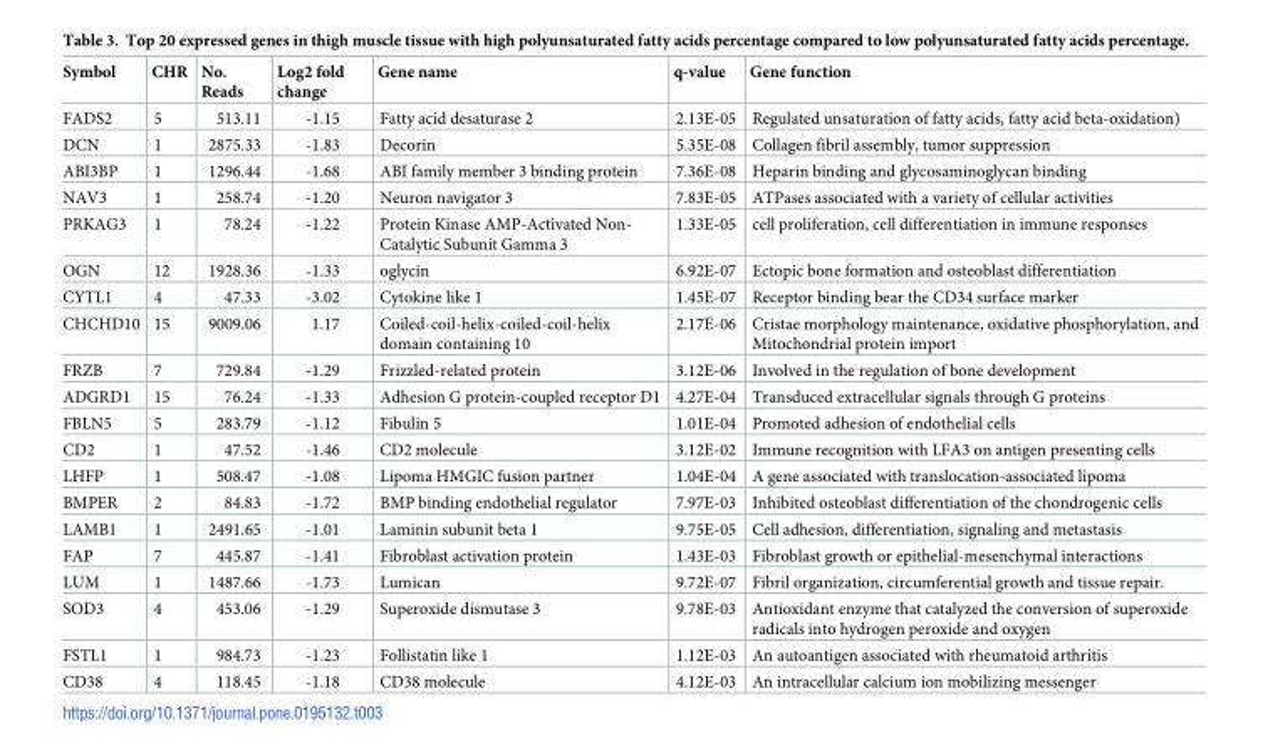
<table><thead><tr><td>Symbol</td><td>CHR</td><td>No. Reads</td><td>Log2 fold change</td><td>Gene name</td><td>q-value</td><td>Gene function</td></tr></thead><tbody><tr><td>FADS2</td><td>5</td><td>513.11</td><td>-1.15</td><td>Fatty acid desaturase 2</td><td>2.13E-05</td><td>Regulated unsaturation of fatty acids, fatty acid beta-oxidation)</td></tr><tr><td>DCN</td><td>1</td><td>2875.33</td><td>-1.83</td><td>Decorin</td><td>5.35E-08</td><td>Collagen fibril assembly, tumor suppression</td></tr><tr><td>ABI3BP</td><td>1</td><td>1296.44</td><td>-1.68</td><td>ABI family member 3 binding protein</td><td>7.36E-08</td><td>Heparin binding and glycosaminoglycan binding</td></tr><tr><td>NAV3</td><td>1</td><td>258.74</td><td>-1.20</td><td>Neuron navigator 3</td><td>7.83E-05</td><td>ATPases associated with a variety of cellular activities</td></tr><tr><td>PRKAG3</td><td>1</td><td>78.24</td><td>-1.22</td><td>Protein Kinase AMP-Activated Non- Catalytic Subunit Gamma 3</td><td>1.33E-05</td><td>cell proliferation, cell differentiation in immune responses</td></tr><tr><td>OGN</td><td>12</td><td>1928.36</td><td>-1.33</td><td>oglycin</td><td>6.92E-07</td><td>Ectopic bone formation and osteoblast differentiation</td></tr><tr><td>CYTL1</td><td>4</td><td>47.33</td><td>-3.02</td><td>Cytokine like 1</td><td>1.45E-07</td><td>Receptor binding bear the CD34 surface marker</td></tr><tr><td>CHCHD10</td><td>15</td><td>9009.06</td><td>1.17</td><td>Coiled-coil-helix-coiled-coil-helix domain containing 10</td><td>2.17E-06</td><td>Cristae morphology maintenance, oxidative phosphorylation, and Mitochondrial protein import</td></tr><tr><td>FRZB</td><td>7</td><td>729.84</td><td>-1.29</td><td>Frizzled-related protein</td><td>3.12E-06</td><td>Involved in the regulation of bone development</td></tr><tr><td>ADGRD1</td><td>15</td><td>76.24</td><td>-1.33</td><td>Adhesion G protein-coupled receptor D1</td><td>4.27E-04</td><td>Transduced extracellular signals through G proteins</td></tr><tr><td>FBLN5</td><td>5</td><td>283.79</td><td>-1.12</td><td>Fibulin 5</td><td>1.01E-04</td><td>Promoted adhesion of endothelial cells</td></tr><tr><td>CD2</td><td>1</td><td>47.52</td><td>-1.46</td><td>CD2 molecule</td><td>3.12E-02</td><td>Immune recognition with LFA3 on antigen presenting cells</td></tr><tr><td>LHFP</td><td>1</td><td>508.47</td><td>-1.08</td><td>Lipoma HMGIC fusion partner</td><td>1.04E-04</td><td>A gene associated with translocation-associated lipoma</td></tr><tr><td>BMPER</td><td>2</td><td>84.83</td><td>-1.72</td><td>BMP binding endothelial regulator</td><td>7.97E-03</td><td>Inhibited osteoblast differentiation of the chondrogenic cells</td></tr><tr><td>LAMB1</td><td>1</td><td>2491.65</td><td>-1.01</td><td>Laminin subunit beta 1</td><td>9.75E-05</td><td>Cell adhesion, differentiation, signaling and metastasis</td></tr><tr><td>FAP</td><td>7</td><td>445.87</td><td>-1.41</td><td>Fibroblast activation protein</td><td>1.43E-03</td><td>Fibroblast growth or epithelial-mesenchymal interactions</td></tr><tr><td>LUM</td><td>1</td><td>1487.66</td><td>-1.73</td><td>Lumican</td><td>9.72E-07</td><td>Fibril organization, circumferential growth and tissue repair.</td></tr><tr><td>SOD3</td><td>4</td><td>453.06</td><td>-1.29</td><td>Superoxide dismutase 3</td><td>9.78E-03</td><td>Antioxidant enzyme that catalyzed the conversion of superoxide radicals into hydrogen peroxide and oxygen</td></tr><tr><td>FSTL1</td><td>1</td><td>984.73</td><td>-1.23</td><td>Follistatin like 1</td><td>1.12E-03</td><td>An autoantigen associated with rheumatoid arthritis</td></tr><tr><td>CD38</td><td>4</td><td>118.45</td><td>-1.18</td><td>CD38 molecule</td><td>4.12E-03</td><td>An intracellular calcium ion mobilizing messenger</td></tr></tbody></table>